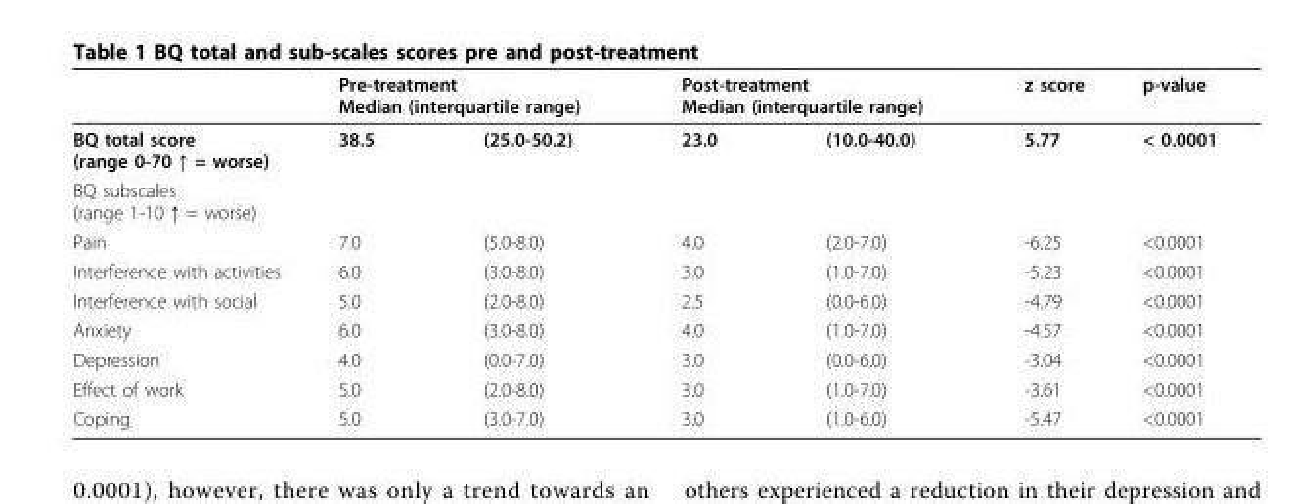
<table><thead><tr><td rowspan="2">BQ total score (range 0-70 ↑ = worse)</td><td colspan="2">Pre-treatment Median (interquartile range)</td><td colspan="2">Post-treatment Median (interquartile range)</td><td rowspan="2">z score 5.77</td><td rowspan="2">p-value &lt; 0.0001</td></tr><tr><td>38.5</td><td>(25.0-50.2)</td><td>23.0</td><td>(10.0-40.0)</td></tr></thead><tbody><tr><td colspan="7">BQ subscales (range 1-10 ↑ = worse)</td></tr><tr><td>Pain</td><td>7.0</td><td>(5.0-8.0)</td><td>4.0</td><td>(2.0-7.0)</td><td>-6.25</td><td>&lt;0.0001</td></tr><tr><td>Interference with activities</td><td>6.0</td><td>(3.0-8.0)</td><td>3.0</td><td>(1.0-7.0)</td><td>-5.23</td><td>&lt;0.0001</td></tr><tr><td>Interference with social</td><td>5.0</td><td>(2.0-8.0)</td><td>2.5</td><td>(0.0-6.0)</td><td>-4.79</td><td>&lt;0.0001</td></tr><tr><td>Anxiety</td><td>6.0</td><td>(3.0-8.0)</td><td>4.0</td><td>(1.0-7.0)</td><td>-4.57</td><td>&lt;0.0001</td></tr><tr><td>Depression</td><td>4.0</td><td>(0.0-7.0)</td><td>3.0</td><td>(0.0-6.0)</td><td>-3.04</td><td>&lt;0.0001</td></tr><tr><td>Effect of work</td><td>5.0</td><td>(2.0-8.0)</td><td>3.0</td><td>(1.0-7.0)</td><td>-3.61</td><td>&lt;0.0001</td></tr><tr><td>Coping</td><td>5.0</td><td>(3.0-7.0)</td><td>3.0</td><td>(1.0-6.0)</td><td>-5.47</td><td>&lt;0.0001</td></tr></tbody></table>